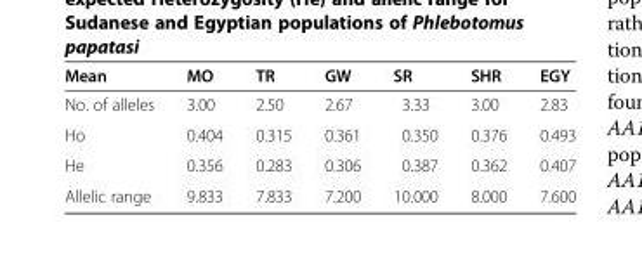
<table><thead><tr><td>Mean</td><td>MO</td><td>TR</td><td>GW</td><td>SR</td><td>SHR</td><td>EGY</td></tr></thead><tbody><tr><td>No. of alleles</td><td>3.00</td><td>2.50</td><td>2.67</td><td>3.33</td><td>3.00</td><td>2.83</td></tr><tr><td>Ho</td><td>0.404</td><td>0.315</td><td>0.361</td><td>0.350</td><td>0.376</td><td>0.493</td></tr><tr><td>He</td><td>0.356</td><td>0.283</td><td>0.306</td><td>0.387</td><td>0.362</td><td>0.407</td></tr><tr><td>Allelic range</td><td>9.833</td><td>7.833</td><td>7.200</td><td>10.000</td><td>8.000</td><td>7.600</td></tr></tbody></table>